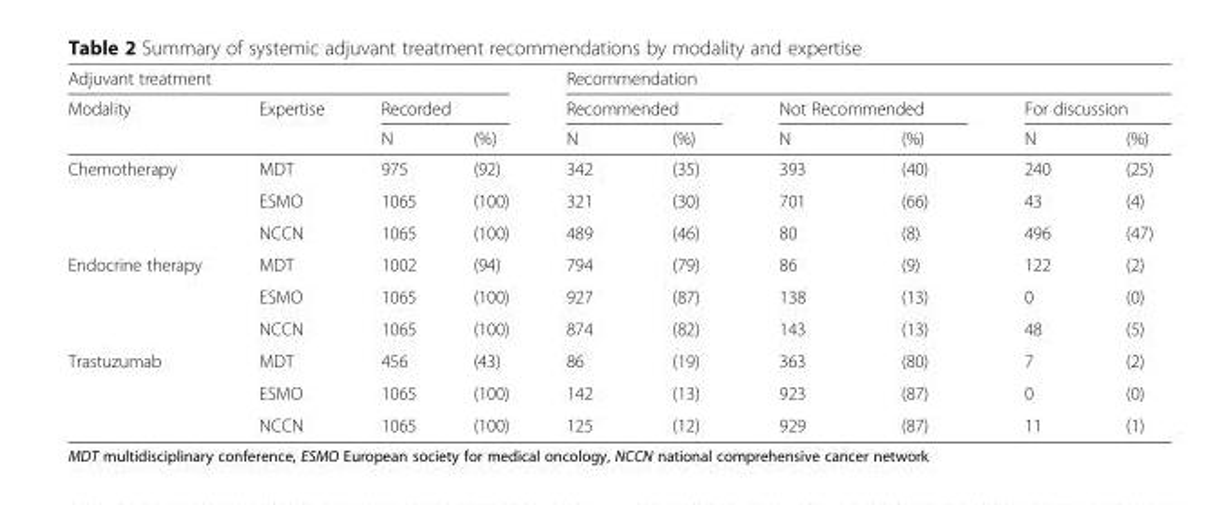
<table><thead><tr><td colspan="4">Adjuvant treatment</td><td colspan="6">Recommendation</td></tr><tr><td rowspan="2">Modality</td><td rowspan="2">Expertise</td><td colspan="2">Recorded</td><td colspan="2">Recommended</td><td colspan="2">Not Recommended</td><td colspan="2">For discussion</td></tr><tr><td>N</td><td>(%)</td><td>N</td><td>(%)</td><td>N</td><td>(%)</td><td>N</td><td>(%)</td></tr></thead><tbody><tr><td rowspan="3">Chemotherapy</td><td>MDT</td><td>975</td><td>(92)</td><td>342</td><td>(35)</td><td>393</td><td>(40)</td><td>240</td><td>(25)</td></tr><tr><td>ESMO</td><td>1065</td><td>(100)</td><td>321</td><td>(30)</td><td>701</td><td>(66)</td><td>43</td><td>(4)</td></tr><tr><td>NCCN</td><td>1065</td><td>(100)</td><td>489</td><td>(46)</td><td>80</td><td>(8)</td><td>496</td><td>(47)</td></tr><tr><td rowspan="3">Endocrine therapy</td><td>MDT</td><td>1002</td><td>(94)</td><td>794</td><td>(79)</td><td>86</td><td>(9)</td><td>122</td><td>(2)</td></tr><tr><td>ESMO</td><td>1065</td><td>(100)</td><td>927</td><td>(87)</td><td>138</td><td>(13)</td><td>0</td><td>(0)</td></tr><tr><td>NCCN</td><td>1065</td><td>(100)</td><td>874</td><td>(82)</td><td>143</td><td>(13)</td><td>48</td><td>(5)</td></tr><tr><td rowspan="3">Trastuzumab</td><td>MDT</td><td>456</td><td>(43)</td><td>86</td><td>(19)</td><td>363</td><td>(80)</td><td>7</td><td>(2)</td></tr><tr><td>ESMO</td><td>1065</td><td>(100)</td><td>142</td><td>(13)</td><td>923</td><td>(87)</td><td>0</td><td>(0)</td></tr><tr><td>NCCN</td><td>1065</td><td>(100)</td><td>125</td><td>(12)</td><td>929</td><td>(87)</td><td>11</td><td>(1)</td></tr></tbody></table>